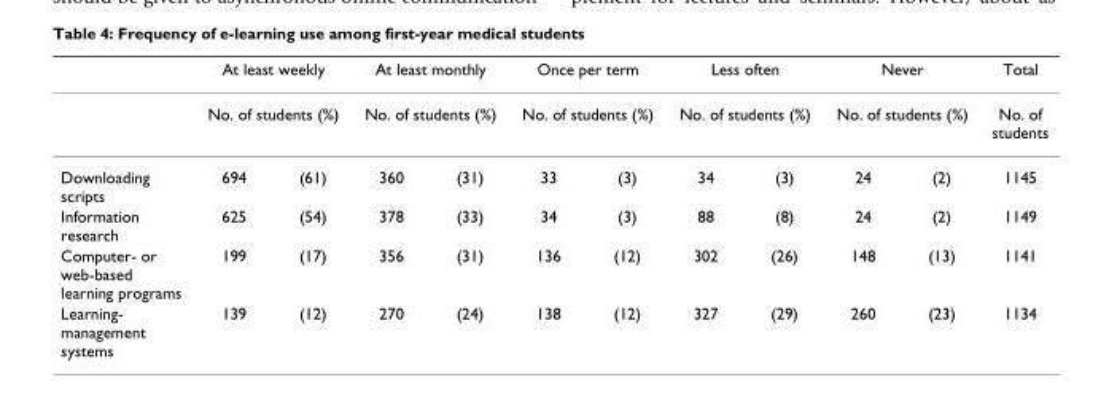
<table><thead><tr><td rowspan="3">Downloading scripts</td><td rowspan="2" colspan="2">At least weekly No. of students (%)</td><td rowspan="2" colspan="2">At least monthly No. of students (%)</td><td rowspan="2" colspan="2">Once per term No. of students (%)</td><td rowspan="2" colspan="2">Less often No. of students (%)</td><td rowspan="2" colspan="2">Never No. of students (%)</td><td rowspan="3">Total No. of students 1145</td></tr><tr></tr><tr><td>694</td><td>(61)</td><td>360</td><td>(31)</td><td>33</td><td>(3)</td><td>34</td><td>(3)</td><td>24</td><td>(2)</td></tr></thead><tbody><tr><td>Information research</td><td>625</td><td>(54)</td><td>378</td><td>(33)</td><td>34</td><td>(3)</td><td>88</td><td>(8)</td><td>24</td><td>(2)</td><td>1149</td></tr><tr><td>Computer- or web-based learning programs</td><td>199</td><td>(17)</td><td>356</td><td>(31)</td><td>136</td><td>(12)</td><td>302</td><td>(26)</td><td>148</td><td>(13)</td><td>1141</td></tr><tr><td>Learning- management systems</td><td>139</td><td>(12)</td><td>270</td><td>(24)</td><td>138</td><td>(12)</td><td>327</td><td>(29)</td><td>260</td><td>(23)</td><td>1134</td></tr></tbody></table>